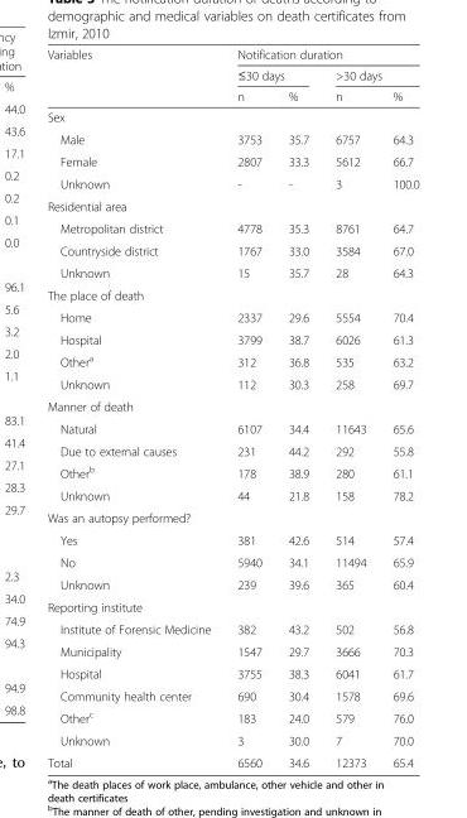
<table><thead><tr><td rowspan="3">Variables</td><td colspan="4">Notification duration</td></tr><tr><td colspan="2">≤30 days</td><td colspan="2">&gt;30 days</td></tr><tr><td>n</td><td>%</td><td>n</td><td>%</td></tr></thead><tbody><tr><td colspan="5">Sex</td></tr><tr><td>Male</td><td>3753</td><td>35.7</td><td>6757</td><td>64.3</td></tr><tr><td>Female</td><td>2807</td><td>33.3</td><td>5612</td><td>66.7</td></tr><tr><td>Unknown</td><td>-</td><td>-</td><td>3</td><td>100.0</td></tr><tr><td colspan="5">Residential area</td></tr><tr><td>Metropolitan district</td><td>4778</td><td>35.3</td><td>8761</td><td>64.7</td></tr><tr><td>Countryside district</td><td>1767</td><td>33.0</td><td>3584</td><td>67.0</td></tr><tr><td>Unknown</td><td>15</td><td>35.7</td><td>28</td><td>64.3</td></tr><tr><td colspan="5">The place of death</td></tr><tr><td>Home</td><td>2337</td><td>29.6</td><td>5554</td><td>70.4</td></tr><tr><td>Hospital</td><td>3799</td><td>38.7</td><td>6026</td><td>61.3</td></tr><tr><td>Other<sup>a</sup></td><td>312</td><td>36.8</td><td>535</td><td>63.2</td></tr><tr><td>Unknown</td><td>112</td><td>30.3</td><td>258</td><td>69.7</td></tr><tr><td colspan="5">Manner of death</td></tr><tr><td>Natural</td><td>6107</td><td>34.4</td><td>11643</td><td>65.6</td></tr><tr><td>Due to external causes</td><td>231</td><td>44.2</td><td>292</td><td>55.8</td></tr><tr><td>Other<sup>b</sup></td><td>178</td><td>38.9</td><td>280</td><td>61.1</td></tr><tr><td>Unknown</td><td>44</td><td>21.8</td><td>158</td><td>78.2</td></tr><tr><td colspan="5">Was an autopsy performed?</td></tr><tr><td>Yes</td><td>381</td><td>42.6</td><td>514</td><td>57.4</td></tr><tr><td>No</td><td>5940</td><td>34.1</td><td>11494</td><td>65.9</td></tr><tr><td>Unknown</td><td>239</td><td>39.6</td><td>365</td><td>60.4</td></tr><tr><td colspan="5">Reporting institute</td></tr><tr><td>Institute of Forensic Medicine</td><td>382</td><td>43.2</td><td>502</td><td>56.8</td></tr><tr><td>Municipality</td><td>1547</td><td>29.7</td><td>3666</td><td>70.3</td></tr><tr><td>Hospital</td><td>3755</td><td>38.3</td><td>6041</td><td>61.7</td></tr><tr><td>Community health center</td><td>690</td><td>30.4</td><td>1578</td><td>69.6</td></tr><tr><td>Other<sup>c</sup></td><td>183</td><td>24.0</td><td>579</td><td>76.0</td></tr><tr><td>Unknown</td><td>3</td><td>30.0</td><td>7</td><td>70.0</td></tr><tr><td>Total</td><td>6560</td><td>34.6</td><td>12373</td><td>65.4</td></tr></tbody></table>